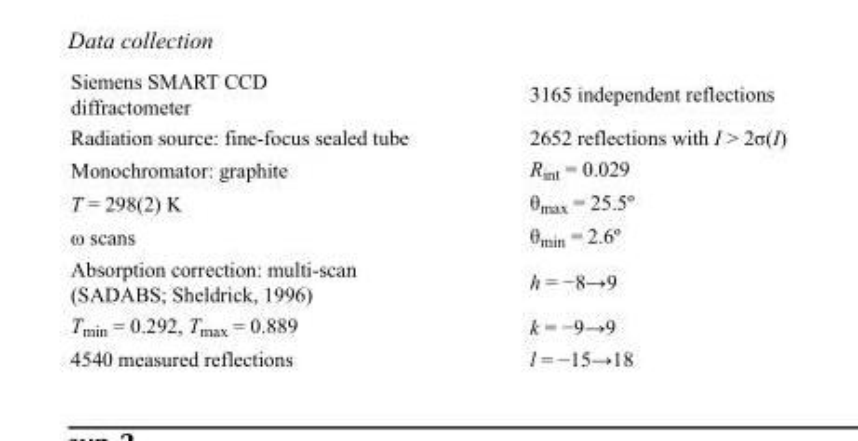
<table><tbody><tr><td>Siemens SMART CCD diffractometer</td><td>3165 independent reflections</td></tr><tr><td>Radiation source: fine-focus sealed tube</td><td>2652 reflections with I &gt; 2σ(I)</td></tr><tr><td>Monochromator: graphite</td><td>R<sub>int</sub> = 0.029</td></tr><tr><td>T = 298(2) K</td><td>θ<sub>max</sub> = 25.5º</td></tr><tr><td>ω scans</td><td>θ<sub>min</sub> = 2.6º</td></tr><tr><td>Absorption correction: multi-scan (SADABS; Sheldrick, 1996)</td><td>h = −8→9</td></tr><tr><td>T<sub>min</sub> = 0.292, T<sub>max</sub> = 0.889</td><td>k = −9→9</td></tr><tr><td>4540 measured reflections</td><td>l = −15→18</td></tr></tbody></table>